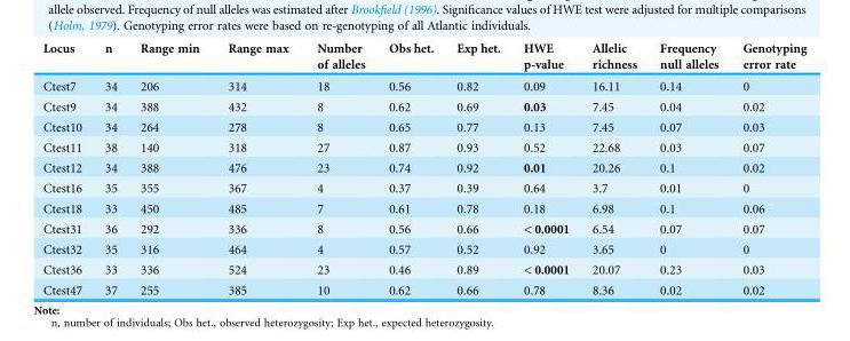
<table><thead><tr><td>Locus</td><td>n</td><td>Range min</td><td>Range max</td><td>Number of alleles</td><td>Obs het.</td><td>Exp het.</td><td>HWE p-value</td><td>Allelic richness</td><td>Frequency null alleles</td><td>Genotyping error rate</td></tr></thead><tbody><tr><td>Ctest7</td><td>34</td><td>206</td><td>314</td><td>18</td><td>0.56</td><td>0.82</td><td>0.09</td><td>16.11</td><td>0.14</td><td>0</td></tr><tr><td>Ctest9</td><td>34</td><td>388</td><td>432</td><td>8</td><td>0.62</td><td>0.69</td><td>0.03</td><td>7.45</td><td>0.04</td><td>0.02</td></tr><tr><td>Ctest10</td><td>34</td><td>264</td><td>278</td><td>8</td><td>0.65</td><td>0.77</td><td>0.13</td><td>7.45</td><td>0.07</td><td>0.03</td></tr><tr><td>Ctest11</td><td>38</td><td>140</td><td>318</td><td>27</td><td>0.87</td><td>0.93</td><td>0.52</td><td>22.68</td><td>0.03</td><td>0.07</td></tr><tr><td>Ctest12</td><td>34</td><td>388</td><td>476</td><td>23</td><td>0.74</td><td>0.92</td><td>0.01</td><td>20.26</td><td>0.1</td><td>0.02</td></tr><tr><td>Ctest16</td><td>35</td><td>355</td><td>367</td><td>4</td><td>0.37</td><td>0.39</td><td>0.64</td><td>3.7</td><td>0.01</td><td>0</td></tr><tr><td>Ctest18</td><td>33</td><td>450</td><td>485</td><td>7</td><td>0.61</td><td>0.78</td><td>0.18</td><td>6.98</td><td>0.1</td><td>0.06</td></tr><tr><td>Ctest31</td><td>36</td><td>292</td><td>336</td><td>8</td><td>0.56</td><td>0.66</td><td>&lt; 0.0001</td><td>6.54</td><td>0.07</td><td>0.07</td></tr><tr><td>Ctest32</td><td>35</td><td>316</td><td>464</td><td>4</td><td>0.57</td><td>0.52</td><td>0.92</td><td>3.65</td><td>0</td><td>0</td></tr><tr><td>Ctest36</td><td>33</td><td>336</td><td>524</td><td>23</td><td>0.46</td><td>0.89</td><td>&lt; 0.0001</td><td>20.07</td><td>0.23</td><td>0.03</td></tr><tr><td>Ctest47</td><td>37</td><td>255</td><td>385</td><td>10</td><td>0.62</td><td>0.66</td><td>0.78</td><td>8.36</td><td>0.02</td><td>0.02</td></tr></tbody></table>